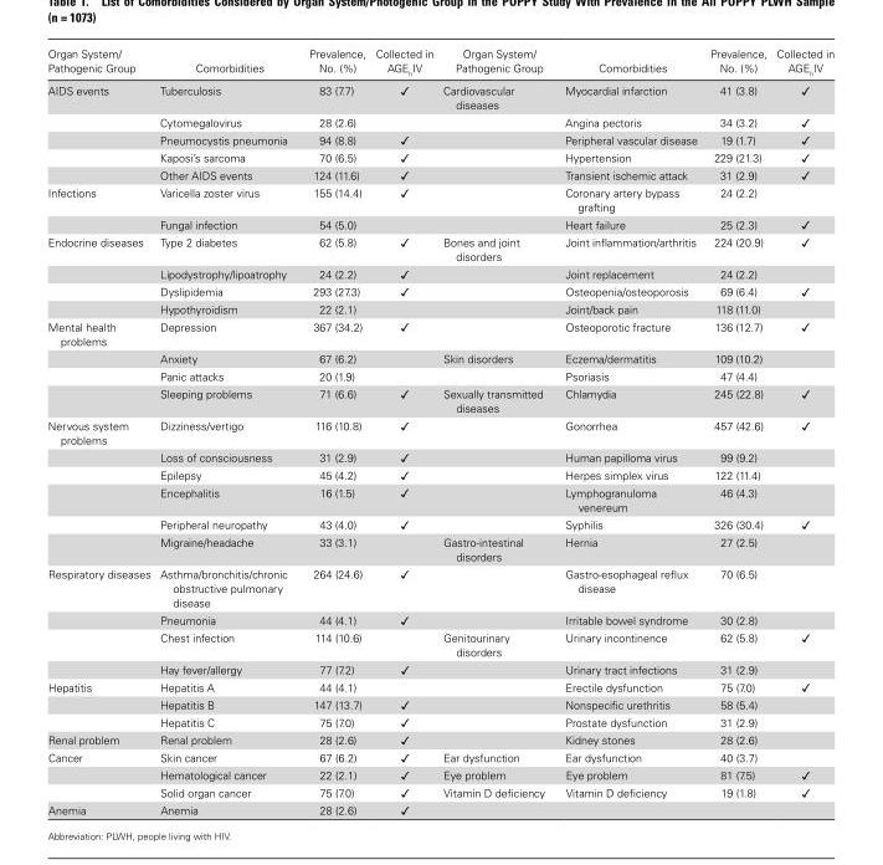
<table><thead><tr><td>Organ System/ Pathogenic Group</td><td>Comorbidities</td><td>Prevalence, No. (%)</td><td>Collected in AGE<sub>h</sub>IV</td><td>Organ System/ Pathogenic Group</td><td>Comorbidities</td><td>Prevalence, No. (%)</td><td>Collected in AGE<sub>h</sub>IV</td></tr></thead><tbody><tr><td rowspan="5">AIDS events</td><td>Tuberculosis</td><td>83 (7.7)</td><td>✓</td><td>Cardiovascular diseases</td><td>Myocardial infarction</td><td>41 (3.8)</td><td>✓</td></tr><tr><td>Cytomegalovirus</td><td>28 (2.6)</td><td></td><td></td><td>Angina pectoris</td><td>34 (3.2)</td><td>✓</td></tr><tr><td>Pneumocystis pneumonia</td><td>94 (8.8)</td><td>✓</td><td></td><td>Peripheral vascular disease</td><td>19 (1.7)</td><td>✓</td></tr><tr><td>Kaposi’s sarcoma</td><td>70 (6.5)</td><td>✓</td><td></td><td>Hypertension</td><td>229 (21.3)</td><td>✓</td></tr><tr><td>Other AIDS events</td><td>124 (11.6)</td><td>✓</td><td></td><td>Transient ischemic attack</td><td>31 (2.9)</td><td>✓</td></tr><tr><td rowspan="2">Infections</td><td>Varicella zoster virus</td><td>155 (14.4)</td><td>✓</td><td></td><td>Coronary artery bypass grafting</td><td>24 (2.2)</td><td></td></tr><tr><td>Fungal infection</td><td>54 (5.0)</td><td></td><td></td><td>Heart failure</td><td>25 (2.3)</td><td>✓</td></tr><tr><td rowspan="4">Endocrine diseases</td><td>Type 2 diabetes</td><td>62 (5.8)</td><td>✓</td><td>Bones and joint disorders</td><td>Joint inflammation/arthritis</td><td>224 (20.9)</td><td>✓</td></tr><tr><td>Lipodystrophy/lipoatrophy</td><td>24 (2.2)</td><td>✓</td><td></td><td>Joint replacement</td><td>24 (2.2)</td><td></td></tr><tr><td>Dyslipidemia</td><td>293 (27.3)</td><td>✓</td><td></td><td>Osteopenia/osteoporosis</td><td>69 (6.4)</td><td>✓</td></tr><tr><td>Hypothyroidism</td><td>22 (2.1)</td><td></td><td></td><td>Joint/back pain</td><td>118 (11.0)</td><td></td></tr><tr><td rowspan="4">Mental health problems</td><td>Depression</td><td>367 (34.2)</td><td>✓</td><td></td><td>Osteoporotic fracture</td><td>136 (12.7)</td><td>✓</td></tr><tr><td>Anxiety</td><td>67 (6.2)</td><td></td><td>Skin disorders</td><td>Eczema/dermatitis</td><td>109 (10.2)</td><td></td></tr><tr><td>Panic attacks</td><td>20 (1.9)</td><td></td><td></td><td>Psoriasis</td><td>47 (4.4)</td><td></td></tr><tr><td>Sleeping problems</td><td>71 (6.6)</td><td>✓</td><td>Sexually transmitted diseases</td><td>Chlamydia</td><td>245 (22.8)</td><td>✓</td></tr><tr><td rowspan="6">Nervous system problems</td><td>Dizziness/vertigo</td><td>116 (10.8)</td><td>✓</td><td></td><td>Gonorrhea</td><td>457 (42.6)</td><td>✓</td></tr><tr><td>Loss of consciousness</td><td>31 (2.9)</td><td>✓</td><td></td><td>Human papilloma virus</td><td>99 (9.2)</td><td></td></tr><tr><td>Epilepsy</td><td>45 (4.2)</td><td>✓</td><td></td><td>Herpes simplex virus</td><td>122 (11.4)</td><td></td></tr><tr><td>Encephalitis</td><td>16 (1.5)</td><td>✓</td><td></td><td>Lymphogranuloma venereum</td><td>46 (4.3)</td><td></td></tr><tr><td>Peripheral neuropathy</td><td>43 (4.0)</td><td>✓</td><td></td><td>Syphilis</td><td>326 (30.4)</td><td>✓</td></tr><tr><td>Migraine/headache</td><td>33 (3.1)</td><td></td><td>Gastro-intestinal disorders</td><td>Hernia</td><td>27 (2.5)</td><td></td></tr><tr><td rowspan="4">Respiratory diseases</td><td>Asthma/bronchitis/chronic obstructive pulmonary disease</td><td>264 (24.6)</td><td>✓</td><td></td><td>Gastro-esophageal reflux disease</td><td>70 (6.5)</td><td></td></tr><tr><td>Pneumonia</td><td>44 (4.1)</td><td>✓</td><td></td><td>Irritable bowel syndrome</td><td>30 (2.8)</td><td></td></tr><tr><td>Chest infection</td><td>114 (10.6)</td><td></td><td>Genitourinary disorders</td><td>Urinary incontinence</td><td>62 (5.8)</td><td>✓</td></tr><tr><td>Hay fever/allergy</td><td>77 (7.2)</td><td>✓</td><td></td><td>Urinary tract infections</td><td>31 (2.9)</td><td></td></tr><tr><td rowspan="3">Hepatitis</td><td>Hepatitis A</td><td>44 (4.1)</td><td></td><td></td><td>Erectile dysfunction</td><td>75 (7.0)</td><td>✓</td></tr><tr><td>Hepatitis B</td><td>147 (13.7)</td><td>✓</td><td></td><td>Nonspecific urethritis</td><td>58 (5.4)</td><td></td></tr><tr><td>Hepatitis C</td><td>75 (7.0)</td><td>✓</td><td></td><td>Prostate dysfunction</td><td>31 (2.9)</td><td></td></tr><tr><td>Renal problem</td><td>Renal problem</td><td>28 (2.6)</td><td>✓</td><td></td><td>Kidney stones</td><td>28 (2.6)</td><td></td></tr><tr><td rowspan="3">Cancer</td><td>Skin cancer</td><td>67 (6.2)</td><td>✓</td><td>Ear dysfunction</td><td>Ear dysfunction</td><td>40 (3.7)</td><td></td></tr><tr><td>Hematological cancer</td><td>22 (2.1)</td><td>✓</td><td>Eye problem</td><td>Eye problem</td><td>81 (7.5)</td><td>✓</td></tr><tr><td>Solid organ cancer</td><td>75 (7.0)</td><td>✓</td><td>Vitamin D deficiency</td><td>Vitamin D deficiency</td><td>19 (1.8)</td><td>✓</td></tr><tr><td>Anemia</td><td>Anemia</td><td>28 (2.6)</td><td>✓</td><td></td><td></td><td></td><td></td></tr></tbody></table>